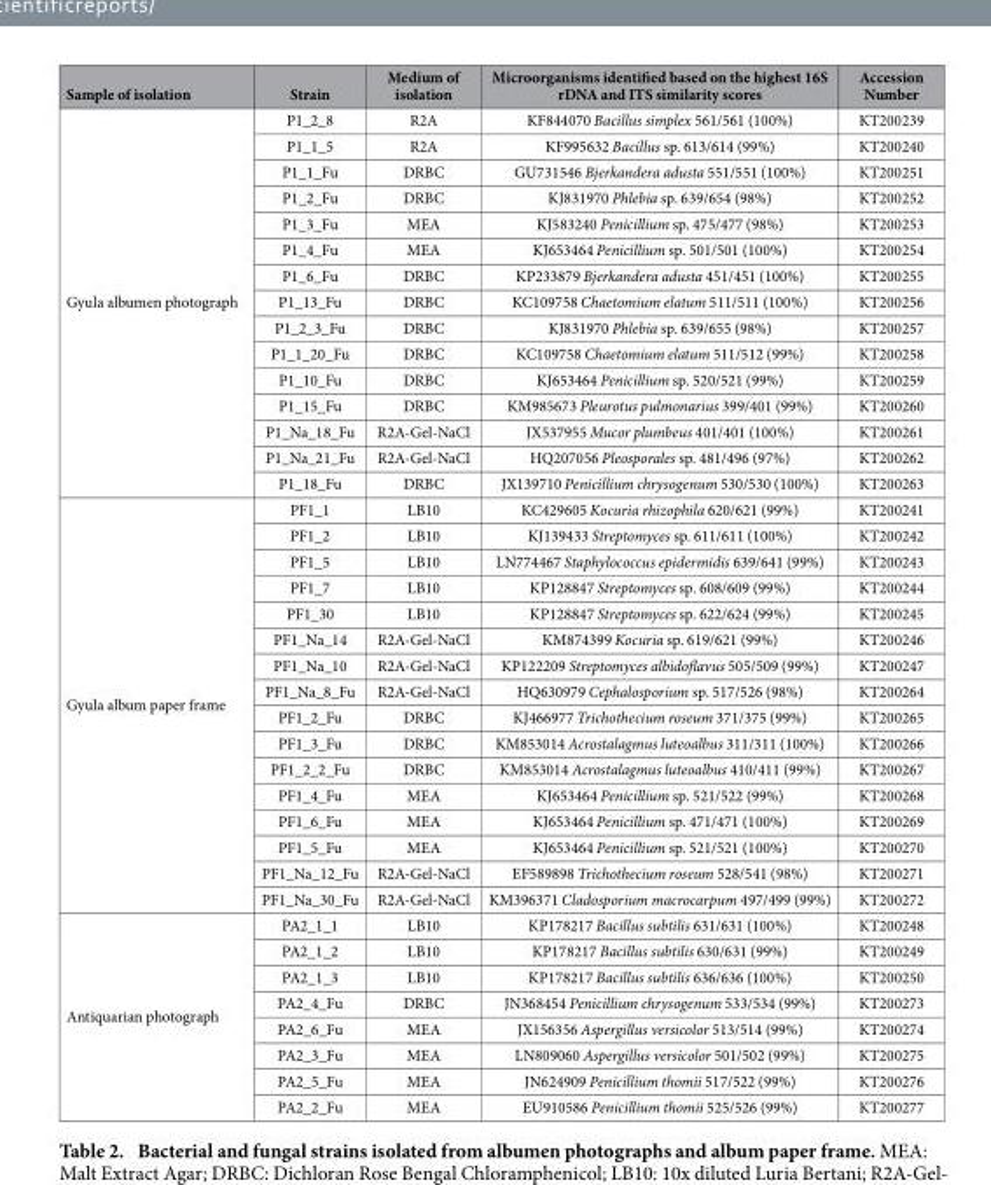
<table><thead><tr><td>Sample of isolation</td><td>Strain</td><td>Medium of isolation</td><td>Microorganisms identified based on the highest 16S rDNA and ITS similarity scores</td><td>Accession Number</td></tr></thead><tbody><tr><td rowspan="15">Gyula albumen photograph</td><td>P1_2_8</td><td>R2A</td><td>KF844070 Bacillus simplex 561/561 (100%)</td><td>KT200239</td></tr><tr><td>P1_1_5</td><td>R2A</td><td>KF995632 Bacillus sp. 613/614 (99%)</td><td>KT200240</td></tr><tr><td>P1_1_Fu</td><td>DRBC</td><td>GU731546 Bjerkandera adusta 551/551 (100%)</td><td>KT200251</td></tr><tr><td>P1_2_Fu</td><td>DRBC</td><td>KJ831970 Phlebia sp. 639/654 (98%)</td><td>KT200252</td></tr><tr><td>P1_3_Fu</td><td>MEA</td><td>KJ583240 Penicillium sp. 475/477 (98%)</td><td>KT200253</td></tr><tr><td>P1_4_Fu</td><td>MEA</td><td>KJ653464 Penicillium sp. 501/501 (100%)</td><td>KT200254</td></tr><tr><td>P1_6_Fu</td><td>DRBC</td><td>KP233879 Bjerkandera adusta 451/451 (100%)</td><td>KT200255</td></tr><tr><td>P1_13_Fu</td><td>DRBC</td><td>KC109758 Chaetomium elatum 511/511 (100%)</td><td>KT200256</td></tr><tr><td>P1_2_3_Fu</td><td>DRBC</td><td>KJ831970 Phlebia sp. 639/655 (98%)</td><td>KT200257</td></tr><tr><td>P1_1_20_Fu</td><td>DRBC</td><td>KC109758 Chaetomium elatum 511/512 (99%)</td><td>KT200258</td></tr><tr><td>P1_10_Fu</td><td>DRBC</td><td>KJ653464 Penicillium sp. 520/521 (99%)</td><td>KT200259</td></tr><tr><td>P1_15_Fu</td><td>DRBC</td><td>KM985673 Pleurotus pulmonarius 399/401 (99%)</td><td>KT200260</td></tr><tr><td>P1_Na_18_Fu</td><td>R2A-Gel-NaCl</td><td>JX537955 Mucor plumbeus 401/401 (100%)</td><td>KT200261</td></tr><tr><td>P1_Na_21_Fu</td><td>R2A-Gel-NaCl</td><td>HQ207056 Pleosporales sp. 481/496 (97%)</td><td>KT200262</td></tr><tr><td>P1_18_Fu</td><td>DRBC</td><td>JX139710 Penicillium chrysogenum 530/530 (100%)</td><td>KT200263</td></tr><tr><td rowspan="16">Gyula album paper frame</td><td>PF1_1</td><td>LB10</td><td>KC429605 Kocuria rhizophila 620/621 (99%)</td><td>KT200241</td></tr><tr><td>PF1_2</td><td>LB10</td><td>KJ139433 Streptomyces sp. 611/611 (100%)</td><td>KT200242</td></tr><tr><td>PF1_5</td><td>LB10</td><td>LN774467 Staphylococcus epidermidis 639/641 (99%)</td><td>KT200243</td></tr><tr><td>PF1_7</td><td>LB10</td><td>KP128847 Streptomyces sp. 608/609 (99%)</td><td>KT200244</td></tr><tr><td>PF1_30</td><td>LB10</td><td>KP128847 Streptomyces sp. 622/624 (99%)</td><td>KT200245</td></tr><tr><td>PF1_Na_14</td><td>R2A-Gel-NaCl</td><td>KM874399 Kocuria sp. 619/621 (99%)</td><td>KT200246</td></tr><tr><td>PF1_Na_10</td><td>R2A-Gel-NaCl</td><td>KP122209 Streptomyces albidoflavus 505/509 (99%)</td><td>KT200247</td></tr><tr><td>PF1_Na_8_Fu</td><td>R2A-Gel-NaCl</td><td>HQ630979 Cephalosporium sp. 517/526 (98%)</td><td>KT200264</td></tr><tr><td>PF1_2_Fu</td><td>DRBC</td><td>KJ466977 Trichothecium roseum 371/375 (99%)</td><td>KT200265</td></tr><tr><td>PF1_3_Fu</td><td>DRBC</td><td>KM853014 Acrostalagmus luteoalbus 311/311 (100%)</td><td>KT200266</td></tr><tr><td>PF1_2_2_Fu</td><td>DRBC</td><td>KM853014 Acrostalagmus luteoalbus 410/411 (99%)</td><td>KT200267</td></tr><tr><td>PF1_4_Fu</td><td>MEA</td><td>KJ653464 Penicillium sp. 521/522 (99%)</td><td>KT200268</td></tr><tr><td>PF1_6_Fu</td><td>MEA</td><td>KJ653464 Penicillium sp. 471/471 (100%)</td><td>KT200269</td></tr><tr><td>PF1_5_Fu</td><td>MEA</td><td>KJ653464 Penicillium sp. 521/521 (100%)</td><td>KT200270</td></tr><tr><td>PF1_Na_12_Fu</td><td>R2A-Gel-NaCl</td><td>EF589898 Trichothecium roseum 528/541 (98%)</td><td>KT200271</td></tr><tr><td>PF1_Na_30_Fu</td><td>R2A-Gel-NaCl</td><td>KM396371 Cladosporium macrocarpum 497/499 (99%)</td><td>KT200272</td></tr><tr><td rowspan="8">Antiquarian photograph</td><td>PA2_1_1</td><td>LB10</td><td>KP178217 Bacillus subtilis 631/631 (100%)</td><td>KT200248</td></tr><tr><td>PA2_1_2</td><td>LB10</td><td>KP178217 Bacillus subtilis 630/631 (99%)</td><td>KT200249</td></tr><tr><td>PA2_1_3</td><td>LB10</td><td>KP178217 Bacillus subtilis 636/636 (100%)</td><td>KT200250</td></tr><tr><td>PA2_4_Fu</td><td>DRBC</td><td>JN368454 Penicillium chrysogenum 533/534 (99%)</td><td>KT200273</td></tr><tr><td>PA2_6_Fu</td><td>MEA</td><td>JX156356 Aspergillus versicolor 513/514 (99%)</td><td>KT200274</td></tr><tr><td>PA2_3_Fu</td><td>MEA</td><td>LN809060 Aspergillus versicolor 501/502 (99%)</td><td>KT200275</td></tr><tr><td>PA2_5_Fu</td><td>MEA</td><td>JN624909 Penicillium thomii 517/522 (99%)</td><td>KT200276</td></tr><tr><td>PA2_2_Fu</td><td>MEA</td><td>EU910586 Penicillium thomii 525/526 (99%)</td><td>KT200277</td></tr></tbody></table>